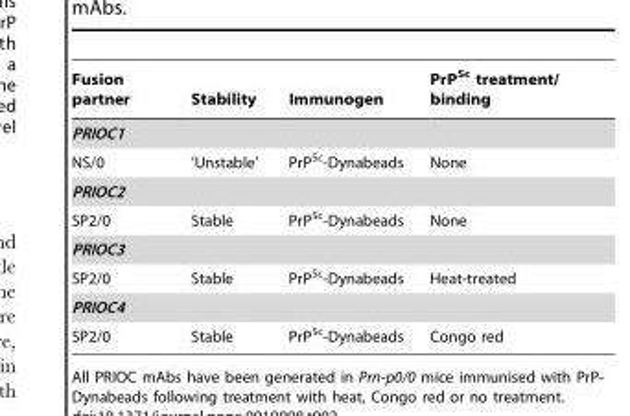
<table><thead><tr><td>Fusion partner</td><td>Stability</td><td>Immunogen</td><td>PrP<sup>Sc</sup> treatment/ binding</td></tr></thead><tbody><tr><td colspan="4">PRIOC1</td></tr><tr><td>NS/0</td><td>‘Unstable’</td><td>PrP<sup>Sc</sup>-Dynabeads</td><td>None</td></tr><tr><td colspan="4">PRIOC2</td></tr><tr><td>SP2/0</td><td>Stable</td><td>PrP<sup>Sc</sup>-Dynabeads</td><td>None</td></tr><tr><td colspan="4">PRIOC3</td></tr><tr><td>SP2/0</td><td>Stable</td><td>PrP<sup>Sc</sup>-Dynabeads</td><td>Heat-treated</td></tr><tr><td colspan="4">PRIOC4</td></tr><tr><td>SP2/0</td><td>Stable</td><td>PrP<sup>Sc</sup>-Dynabeads</td><td>Congo red</td></tr></tbody></table>